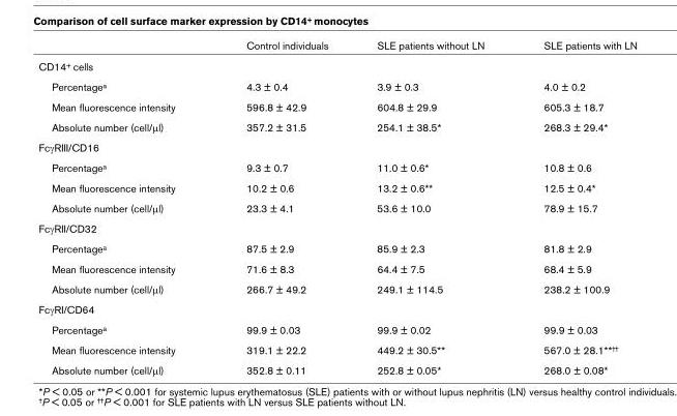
<table><thead><tr><td></td><td>Control individuals</td><td>SLE patients without LN</td><td>SLE patients with LN</td></tr></thead><tbody><tr><td colspan="4">CD14<sup>+</sup> cells</td></tr><tr><td>Percentage<sup>a</sup></td><td>4.3 ± 0.4</td><td>3.9 ± 0.3</td><td>4.0 ± 0.2</td></tr><tr><td>Mean fluorescence intensity</td><td>596.8 ± 42.9</td><td>604.8 ± 29.9</td><td>605.3 ± 18.7</td></tr><tr><td>Absolute number (cell/μl)</td><td>357.2 ± 31.5</td><td>254.1 ± 38.5*</td><td>268.3 ± 29.4*</td></tr><tr><td colspan="4">FcγRIII/CD16</td></tr><tr><td>Percentage<sup>a</sup></td><td>9.3 ± 0.7</td><td>11.0 ± 0.6*</td><td>10.8 ± 0.6</td></tr><tr><td>Mean fluorescence intensity</td><td>10.2 ± 0.6</td><td>13.2 ± 0.6**</td><td>12.5 ± 0.4*</td></tr><tr><td>Absolute number (cell/μl)</td><td>23.3 ± 4.1</td><td>53.6 ± 10.0</td><td>78.9 ± 15.7</td></tr><tr><td colspan="4">FcγRII/CD32</td></tr><tr><td>Percentage<sup>a</sup></td><td>87.5 ± 2.9</td><td>85.9 ± 2.3</td><td>81.8 ± 2.9</td></tr><tr><td>Mean fluorescence intensity</td><td>71.6 ± 8.3</td><td>64.4 ± 7.5</td><td>68.4 ± 5.9</td></tr><tr><td>Absolute number (cell/μl)</td><td>266.7 ± 49.2</td><td>249.1 ± 114.5</td><td>238.2 ± 100.9</td></tr><tr><td colspan="4">FcγRI/CD64</td></tr><tr><td>Percentage<sup>a</sup></td><td>99.9 ± 0.03</td><td>99.9 ± 0.02</td><td>99.9 ± 0.03</td></tr><tr><td>Mean fluorescence intensity</td><td>319.1 ± 22.2</td><td>449.2 ± 30.5**</td><td>567.0 ± 28.1**<sup>††</sup></td></tr><tr><td>Absolute number (cell/μl)</td><td>352.8 ± 0.11</td><td>252.8 ± 0.05*</td><td>268.0 ± 0.08*</td></tr></tbody></table>